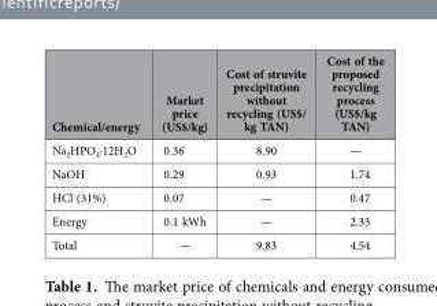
<table><thead><tr><td>Chemical/energy</td><td>Market price (US$/kg)</td><td>Cost of struvite precipitation without recycling (US$/ kg TAN)</td><td>Cost of the proposed recycling process (US$/kg TAN)</td></tr></thead><tbody><tr><td>Na<sub>2</sub>HPO<sub>4</sub>·12H<sub>2</sub>O</td><td>0.36</td><td>8.90</td><td>—</td></tr><tr><td>NaOH</td><td>0.29</td><td>0.93</td><td>1.74</td></tr><tr><td>HCl (31%)</td><td>0.07</td><td>—</td><td>0.47</td></tr><tr><td>Energy</td><td>0.1 kWh</td><td>—</td><td>2.33</td></tr><tr><td>Total</td><td>—</td><td>9.83</td><td>4.54</td></tr></tbody></table>